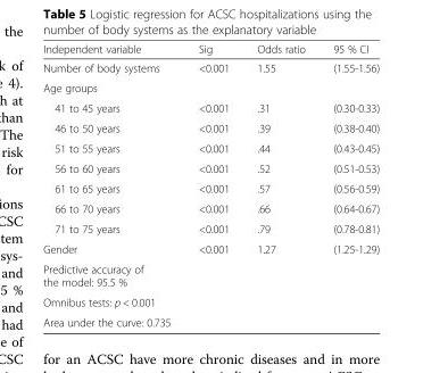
<table><thead><tr><td>Independent variable</td><td>Sig</td><td>Odds ratio</td><td>95 % CI</td></tr></thead><tbody><tr><td>Number of body systems</td><td>&lt;0.001</td><td>1.55</td><td>(1.55-1.56)</td></tr><tr><td colspan="4">Age groups</td></tr><tr><td>41 to 45 years</td><td>&lt;0.001</td><td>.31</td><td>(0.30-0.33)</td></tr><tr><td>46 to 50 years</td><td>&lt;0.001</td><td>.39</td><td>(0.38-0.40)</td></tr><tr><td>51 to 55 years</td><td>&lt;0.001</td><td>.44</td><td>(0.43-0.45)</td></tr><tr><td>56 to 60 years</td><td>&lt;0.001</td><td>.52</td><td>(0.51-0.53)</td></tr><tr><td>61 to 65 years</td><td>&lt;0.001</td><td>.57</td><td>(0.56-0.59)</td></tr><tr><td>66 to 70 years</td><td>&lt;0.001</td><td>.66</td><td>(0.64-0.67)</td></tr><tr><td>71 to 75 years</td><td>&lt;0.001</td><td>.79</td><td>(0.78-0.81)</td></tr><tr><td>Gender</td><td>&lt;0.001</td><td>1.27</td><td>(1.25-1.29)</td></tr><tr><td colspan="4">Predictive accuracy of the model: 95.5 %</td></tr><tr><td colspan="4">Omnibus tests: p &lt; 0.001</td></tr><tr><td>Area under the curve: 0.735</td><td></td><td></td><td></td></tr></tbody></table>